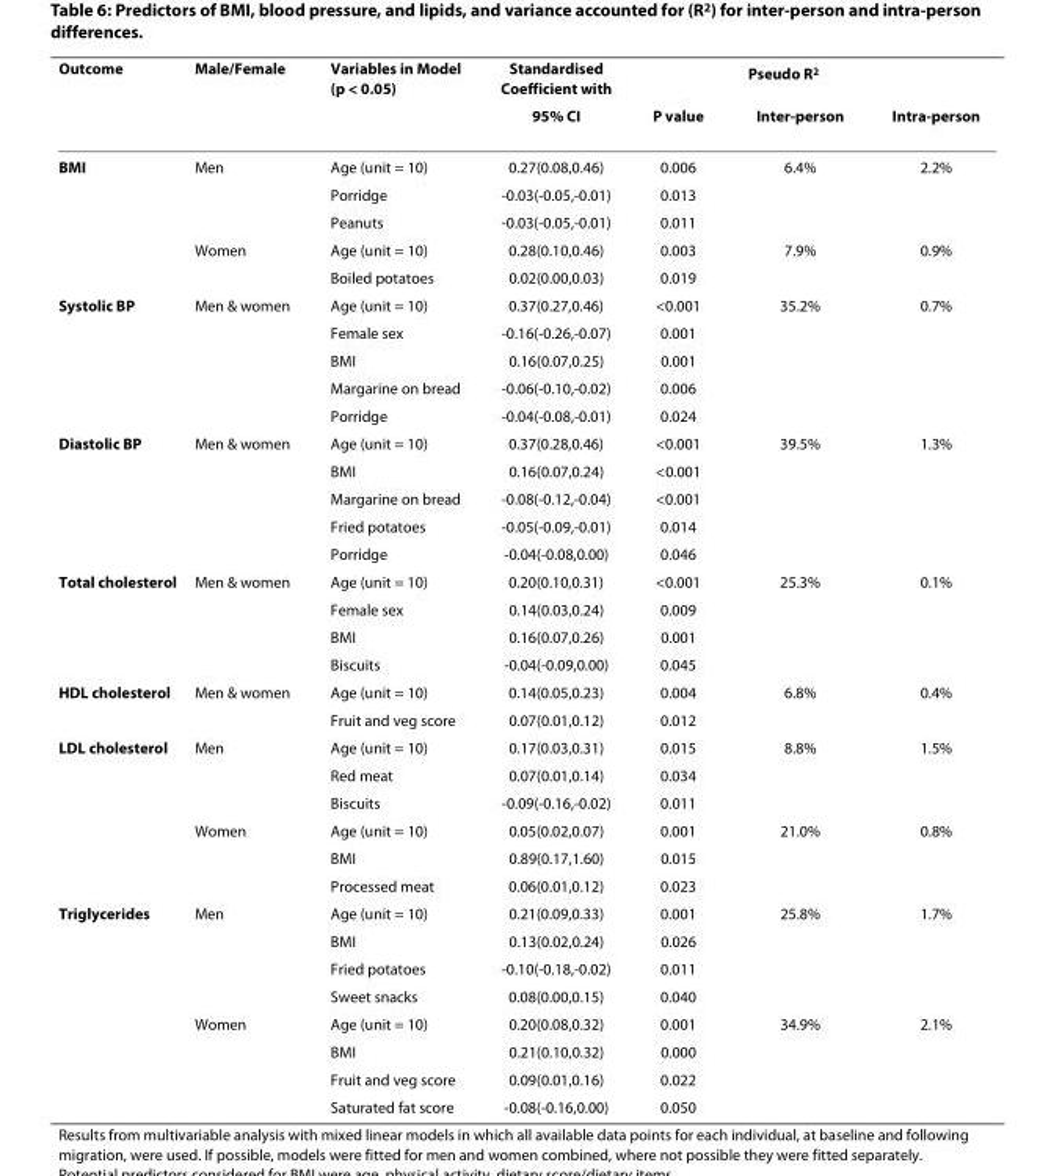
<table><thead><tr><td rowspan="2">Outcome</td><td rowspan="2">Male/Female</td><td rowspan="2">Variables in Model (p &lt; 0.05)</td><td rowspan="2">Standardised Coefficient with 95% CI</td><td rowspan="2">P value</td><td colspan="2">Pseudo R<sup>2</sup></td></tr><tr><td>Inter-person</td><td>Intra-person</td></tr></thead><tbody><tr><td rowspan="5">BMI</td><td>Men</td><td>Age (unit = 10)</td><td>0.27(0.08,0.46)</td><td>0.006</td><td>6.4%</td><td>2.2%</td></tr><tr><td></td><td>Porridge</td><td>-0.03(-0.05,-0.01)</td><td>0.013</td><td></td><td></td></tr><tr><td></td><td>Peanuts</td><td>-0.03(-0.05,-0.01)</td><td>0.011</td><td></td><td></td></tr><tr><td>Women</td><td>Age (unit = 10)</td><td>0.28(0.10,0.46)</td><td>0.003</td><td>7.9%</td><td>0.9%</td></tr><tr><td></td><td>Boiled potatoes</td><td>0.02(0.00,0.03)</td><td>0.019</td><td></td><td></td></tr><tr><td rowspan="5">Systolic BP</td><td>Men &amp; women</td><td>Age (unit = 10)</td><td>0.37(0.27,0.46)</td><td>&lt;0.001</td><td>35.2%</td><td>0.7%</td></tr><tr><td></td><td>Female sex</td><td>-0.16(-0.26,-0.07)</td><td>0.001</td><td></td><td></td></tr><tr><td></td><td>BMI</td><td>0.16(0.07,0.25)</td><td>0.001</td><td></td><td></td></tr><tr><td></td><td>Margarine on bread</td><td>-0.06(-0.10,-0.02)</td><td>0.006</td><td></td><td></td></tr><tr><td></td><td>Porridge</td><td>-0.04(-0.08,-0.01)</td><td>0.024</td><td></td><td></td></tr><tr><td rowspan="5">Diastolic BP</td><td>Men &amp; women</td><td>Age (unit = 10)</td><td>0.37(0.28,0.46)</td><td>&lt;0.001</td><td>39.5%</td><td>1.3%</td></tr><tr><td></td><td>BMI</td><td>0.16(0.07,0.24)</td><td>&lt;0.001</td><td></td><td></td></tr><tr><td></td><td>Margarine on bread</td><td>-0.08(-0.12,-0.04)</td><td>&lt;0.001</td><td></td><td></td></tr><tr><td></td><td>Fried potatoes</td><td>-0.05(-0.09,-0.01)</td><td>0.014</td><td></td><td></td></tr><tr><td></td><td>Porridge</td><td>-0.04(-0.08,0.00)</td><td>0.046</td><td></td><td></td></tr><tr><td rowspan="4">Total cholesterol</td><td>Men &amp; women</td><td>Age (unit = 10)</td><td>0.20(0.10,0.31)</td><td>&lt;0.001</td><td>25.3%</td><td>0.1%</td></tr><tr><td></td><td>Female sex</td><td>0.14(0.03,0.24)</td><td>0.009</td><td></td><td></td></tr><tr><td></td><td>BMI</td><td>0.16(0.07,0.26)</td><td>0.001</td><td></td><td></td></tr><tr><td></td><td>Biscuits</td><td>-0.04(-0.09,0.00)</td><td>0.045</td><td></td><td></td></tr><tr><td rowspan="2">HDL cholesterol</td><td>Men &amp; women</td><td>Age (unit = 10)</td><td>0.14(0.05,0.23)</td><td>0.004</td><td>6.8%</td><td>0.4%</td></tr><tr><td></td><td>Fruit and veg score</td><td>0.07(0.01,0.12)</td><td>0.012</td><td></td><td></td></tr><tr><td rowspan="6">LDL cholesterol</td><td>Men</td><td>Age (unit = 10)</td><td>0.17(0.03,0.31)</td><td>0.015</td><td>8.8%</td><td>1.5%</td></tr><tr><td></td><td>Red meat</td><td>0.07(0.01,0.14)</td><td>0.034</td><td></td><td></td></tr><tr><td></td><td>Biscuits</td><td>-0.09(-0.16,-0.02)</td><td>0.011</td><td></td><td></td></tr><tr><td>Women</td><td>Age (unit = 10)</td><td>0.05(0.02,0.07)</td><td>0.001</td><td>21.0%</td><td>0.8%</td></tr><tr><td></td><td>BMI</td><td>0.89(0.17,1.60)</td><td>0.015</td><td></td><td></td></tr><tr><td></td><td>Processed meat</td><td>0.06(0.01,0.12)</td><td>0.023</td><td></td><td></td></tr><tr><td rowspan="8">Triglycerides</td><td>Men</td><td>Age (unit = 10)</td><td>0.21(0.09,0.33)</td><td>0.001</td><td>25.8%</td><td>1.7%</td></tr><tr><td></td><td>BMI</td><td>0.13(0.02,0.24)</td><td>0.026</td><td></td><td></td></tr><tr><td></td><td>Fried potatoes</td><td>-0.10(-0.18,-0.02)</td><td>0.011</td><td></td><td></td></tr><tr><td></td><td>Sweet snacks</td><td>0.08(0.00,0.15)</td><td>0.040</td><td></td><td></td></tr><tr><td>Women</td><td>Age (unit = 10)</td><td>0.20(0.08,0.32)</td><td>0.001</td><td>34.9%</td><td>2.1%</td></tr><tr><td></td><td>BMI</td><td>0.21(0.10,0.32)</td><td>0.000</td><td></td><td></td></tr><tr><td></td><td>Fruit and veg score</td><td>0.09(0.01,0.16)</td><td>0.022</td><td></td><td></td></tr><tr><td></td><td>Saturated fat score</td><td>-0.08(-0.16,0.00)</td><td>0.050</td><td></td><td></td></tr></tbody></table>